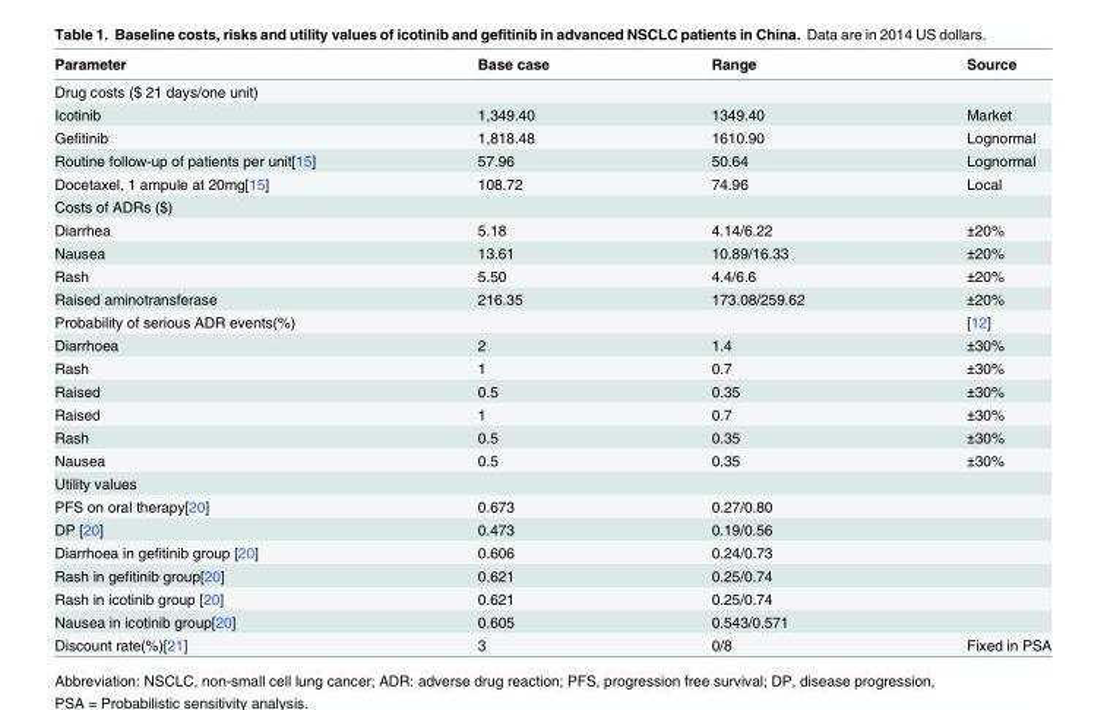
<table><thead><tr><td>Parameter</td><td>Base case</td><td>Range</td><td>Source</td></tr></thead><tbody><tr><td colspan="4">Drug costs ($ 21 days/one unit)</td></tr><tr><td>Icotinib</td><td>1,349.40</td><td>1349.40</td><td>Market</td></tr><tr><td>Gefitinib</td><td>1,818.48</td><td>1610.90</td><td>Lognormal</td></tr><tr><td>Routine follow-up of patients per unit[15]</td><td>57.96</td><td>50.64</td><td>Lognormal</td></tr><tr><td>Docetaxel, 1 ampule at 20mg[15]</td><td>108.72</td><td>74.96</td><td>Local</td></tr><tr><td colspan="4">Costs of ADRs ($)</td></tr><tr><td>Diarrhea</td><td>5.18</td><td>4.14/6.22</td><td>±20%</td></tr><tr><td>Nausea</td><td>13.61</td><td>10.89/16.33</td><td>±20%</td></tr><tr><td>Rash</td><td>5.50</td><td>4.4/6.6</td><td>±20%</td></tr><tr><td>Raised aminotransferase</td><td>216.35</td><td>173.08/259.62</td><td>±20%</td></tr><tr><td>Probability of serious ADR events(%)</td><td colspan="2"></td><td>[12]</td></tr><tr><td>Diarrhoea</td><td>2</td><td>1.4</td><td>±30%</td></tr><tr><td>Rash</td><td>1</td><td>0.7</td><td>±30%</td></tr><tr><td>Raised</td><td>0.5</td><td>0.35</td><td>±30%</td></tr><tr><td>Raised</td><td>1</td><td>0.7</td><td>±30%</td></tr><tr><td>Rash</td><td>0.5</td><td>0.35</td><td>±30%</td></tr><tr><td>Nausea</td><td>0.5</td><td>0.35</td><td>±30%</td></tr><tr><td colspan="4">Utility values</td></tr><tr><td>PFS on oral therapy[20]</td><td>0.673</td><td>0.27/0.80</td><td></td></tr><tr><td>DP [20]</td><td>0.473</td><td>0.19/0.56</td><td></td></tr><tr><td>Diarrhoea in gefitinib group [20]</td><td>0.606</td><td>0.24/0.73</td><td></td></tr><tr><td>Rash in gefitinib group[20]</td><td>0.621</td><td>0.25/0.74</td><td></td></tr><tr><td>Rash in icotinib group [20]</td><td>0.621</td><td>0.25/0.74</td><td></td></tr><tr><td>Nausea in icotinib group[20]</td><td>0.605</td><td>0.543/0.571</td><td></td></tr><tr><td>Discount rate(%)[21]</td><td>3</td><td>0/8</td><td>Fixed in PSA</td></tr></tbody></table>